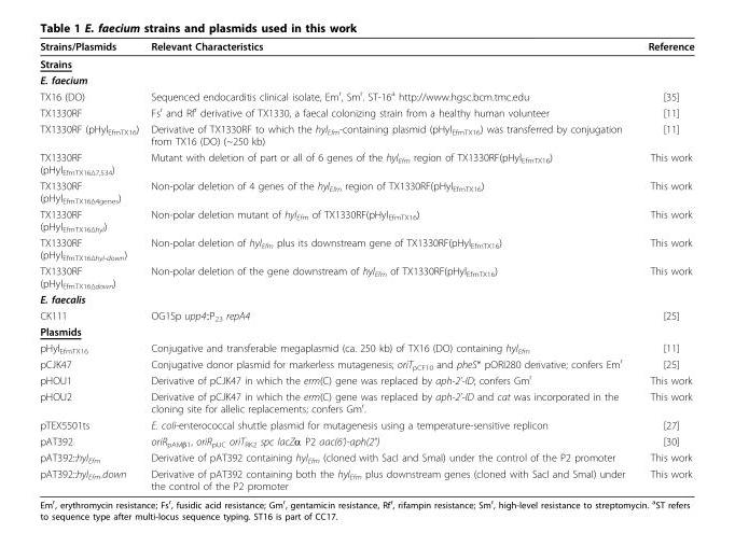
<table><thead><tr><td>Strains/Plasmids</td><td>Relevant Characteristics</td><td>Reference</td></tr></thead><tbody><tr><td colspan="3">Strains</td></tr><tr><td colspan="3">E. faecium</td></tr><tr><td>TX16 (DO)</td><td>Sequenced endocarditis clinical isolate, Em<sup>r</sup>, Sm<sup>r</sup>. ST-16<sup>a</sup> http://www.hgsc.bcm.tmc.edu</td><td>[35]</td></tr><tr><td>TX1330RF</td><td>Fs<sup>r</sup> and Rf<sup>r</sup> derivative of TX1330, a faecal colonizing strain from a healthy human volunteer</td><td>[11]</td></tr><tr><td>TX1330RF (pHyl<sub>EfmTX16</sub>)</td><td>Derivative of TX1330RF to which the hyl<sub>Efm</sub>-containing plasmid (pHyl<sub>EfmTX16</sub>) was transferred by conjugation from TX16 (DO) (~250 kb)</td><td>[11]</td></tr><tr><td>TX1330RF (pHyl<sub>EfmTX16Δ7,534</sub>)</td><td>Mutant with deletion of part or all of 6 genes of the hyl<sub>Efm</sub> region of TX1330RF(pHyl<sub>EfmTX16</sub>)</td><td>This work</td></tr><tr><td>TX1330RF (pHyl<sub>EfmTX16Δ4genes</sub>)</td><td>Non-polar deletion of 4 genes of the hyl<sub>Efm</sub> region of TX1330RF(pHyl<sub>EfmTX16</sub>)</td><td>This work</td></tr><tr><td>TX1330RF (pHyl<sub>EfmTX16Δhyl</sub>)</td><td>Non-polar deletion mutant of hyl<sub>Efm</sub> of TX1330RF(pHyl<sub>EfmTX16</sub>)</td><td>This work</td></tr><tr><td>TX1330RF (pHyl<sub>EfmTX16Δhyl-down</sub>)</td><td>Non-polar deletion of hyl<sub>Efm</sub> plus its downstream gene of TX1330RF(pHyl<sub>EfmTX16</sub>)</td><td>This work</td></tr><tr><td>TX1330RF (pHyl<sub>EfmTX16Δdown</sub>)</td><td>Non-polar deletion of the gene downstream of hyl<sub>Efm</sub> of TX1330RF(pHyl<sub>EfmTX16</sub>)</td><td>This work</td></tr><tr><td colspan="3">E. faecalis</td></tr><tr><td>CK111</td><td>OG1Sp upp4::P<sub>23</sub> repA4</td><td>[25]</td></tr><tr><td colspan="3">Plasmids</td></tr><tr><td>pHyl<sub>EfmTX16</sub></td><td>Conjugative and transferable megaplasmid (ca. 250 kb) of TX16 (DO) containing hyl<sub>Efm</sub></td><td>[11]</td></tr><tr><td>pCJK47</td><td>Conjugative donor plasmid for markerless mutagenesis; oriT<sub>pCF10</sub> and pheS* pORI280 derivative; confers Em<sup>r</sup></td><td>[25]</td></tr><tr><td>pHOU1</td><td>Derivative of pCJK47 in which the erm(C) gene was replaced by aph-2’-ID; confers Gm<sup>r</sup></td><td>This work</td></tr><tr><td>pHOU2</td><td>Derivative of pCJK47 in which the erm(C) gene was replaced by aph-2’-ID and cat was incorporated in the cloning site for allelic replacements; confers Gm<sup>r</sup>.</td><td>This work</td></tr><tr><td>pTEX5501ts</td><td>E. coli-enterococcal shuttle plasmid for mutagenesis using a temperature-sensitive replicon</td><td>[27]</td></tr><tr><td>pAT392</td><td>oriRpAMβ1, oriRpUC oriTRK2 spc lacZα P2 aac(6’)-aph(2”)</td><td>[30]</td></tr><tr><td>pAT392::hyl<sub>Efm</sub></td><td>Derivative of pAT392 containing hyl<sub>Efm</sub> (cloned with SacI and SmaI) under the control of the P2 promoter</td><td>This work</td></tr><tr><td>pAT392::hyl<sub>Efm-</sub>down</td><td>Derivative of pAT392 containing both the hyl<sub>Efm</sub> plus downstream genes (cloned with SacI and SmaI) under the control of the P2 promoter</td><td>This work</td></tr></tbody></table>